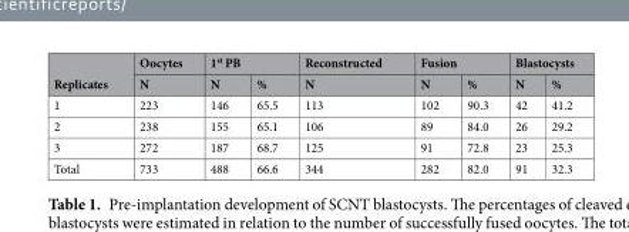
<table><thead><tr><td rowspan="2">Replicates</td><td rowspan="2">Oocytes N</td><td colspan="2">1<sup>st</sup> PB</td><td rowspan="2">Reconstructed N</td><td colspan="2">Fusion</td><td colspan="2">Blastocysts</td></tr><tr><td>N</td><td>%</td><td>N</td><td>%</td><td>N</td><td>%</td></tr></thead><tbody><tr><td>1</td><td>223</td><td>146</td><td>65.5</td><td>113</td><td>102</td><td>90.3</td><td>42</td><td>41.2</td></tr><tr><td>2</td><td>238</td><td>155</td><td>65.1</td><td>106</td><td>89</td><td>84.0</td><td>26</td><td>29.2</td></tr><tr><td>3</td><td>272</td><td>187</td><td>68.7</td><td>125</td><td>91</td><td>72.8</td><td>23</td><td>25.3</td></tr><tr><td>Total</td><td>733</td><td>488</td><td>66.6</td><td>344</td><td>282</td><td>82.0</td><td>91</td><td>32.3</td></tr></tbody></table>